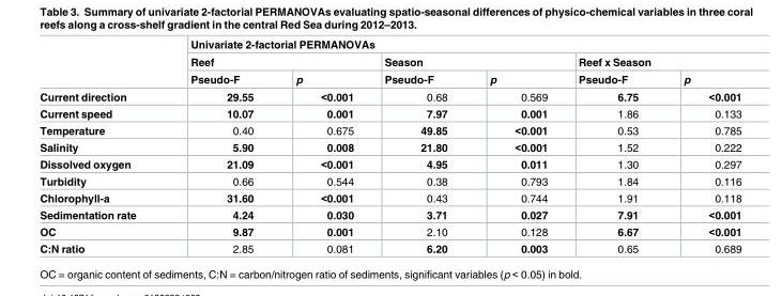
<table><thead><tr><td rowspan="3"></td><td colspan="6">Univariate 2-factorial PERMANOVAs</td></tr><tr><td colspan="2">Reef</td><td colspan="2">Season</td><td colspan="2">Reef x Season</td></tr><tr><td>Pseudo-F</td><td>p</td><td>Pseudo-F</td><td>p</td><td>Pseudo-F</td><td>p</td></tr></thead><tbody><tr><td>Current direction</td><td>29.55</td><td>&lt;0.001</td><td>0.68</td><td>0.569</td><td>6.75</td><td>&lt;0.001</td></tr><tr><td>Current speed</td><td>10.07</td><td>0.001</td><td>7.97</td><td>0.001</td><td>1.86</td><td>0.133</td></tr><tr><td>Temperature</td><td>0.40</td><td>0.675</td><td>49.85</td><td>&lt;0.001</td><td>0.53</td><td>0.785</td></tr><tr><td>Salinity</td><td>5.90</td><td>0.008</td><td>21.80</td><td>&lt;0.001</td><td>1.52</td><td>0.222</td></tr><tr><td>Dissolved oxygen</td><td>21.09</td><td>&lt;0.001</td><td>4.95</td><td>0.011</td><td>1.30</td><td>0.297</td></tr><tr><td>Turbidity</td><td>0.66</td><td>0.544</td><td>0.38</td><td>0.793</td><td>1.84</td><td>0.116</td></tr><tr><td>Chlorophyll-a</td><td>31.60</td><td>&lt;0.001</td><td>0.43</td><td>0.744</td><td>1.91</td><td>0.118</td></tr><tr><td>Sedimentation rate</td><td>4.24</td><td>0.030</td><td>3.71</td><td>0.027</td><td>7.91</td><td>&lt;0.001</td></tr><tr><td>OC</td><td>9.87</td><td>0.001</td><td>2.10</td><td>0.128</td><td>6.67</td><td>&lt;0.001</td></tr><tr><td>C:N ratio</td><td>2.85</td><td>0.081</td><td>6.20</td><td>0.003</td><td>0.65</td><td>0.689</td></tr></tbody></table>